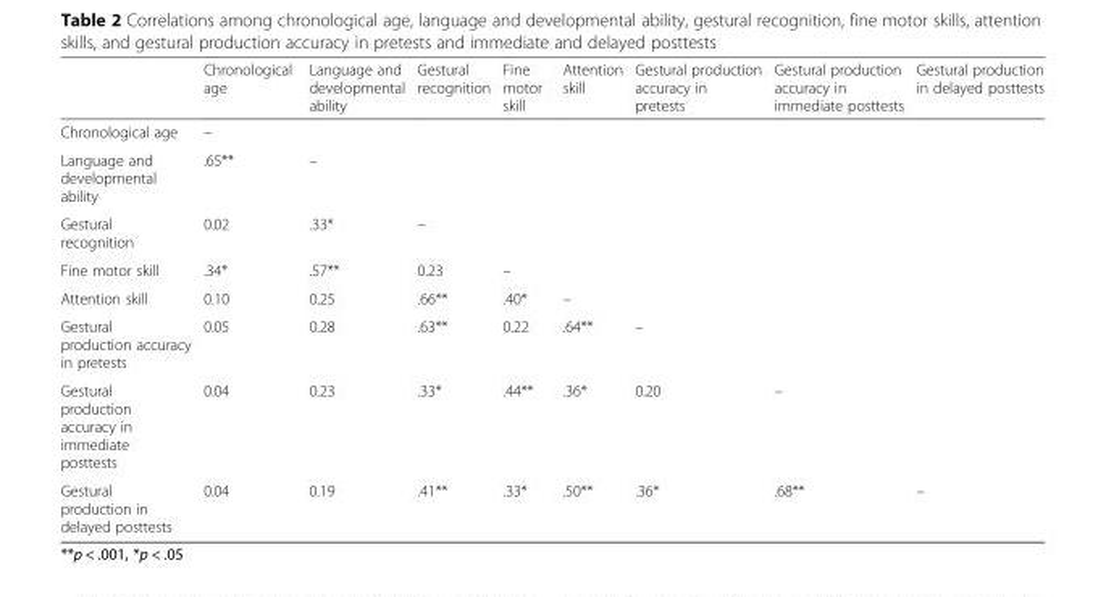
<table><thead><tr><td></td><td>Chronological age</td><td>Language and developmental ability</td><td>Gestural recognition</td><td>Fine motor skill</td><td>Attention skill</td><td>Gestural production accuracy in pretests</td><td>Gestural production accuracy in immediate posttests</td><td>Gestural production in delayed posttests</td></tr></thead><tbody><tr><td>Chronological age</td><td>–</td><td></td><td></td><td></td><td></td><td></td><td></td><td rowspan="7"></td></tr><tr><td>Language and developmental ability</td><td>.65**</td><td>–</td><td></td><td></td><td></td><td></td><td></td></tr><tr><td>Gestural recognition</td><td>0.02</td><td>.33*</td><td>–</td><td></td><td></td><td></td><td></td></tr><tr><td>Fine motor skill</td><td>.34*</td><td>.57**</td><td>0.23</td><td>–</td><td></td><td></td><td></td></tr><tr><td>Attention skill</td><td>0.10</td><td>0.25</td><td>.66**</td><td>.40*</td><td>–</td><td></td><td></td></tr><tr><td>Gestural production accuracy in pretests</td><td>0.05</td><td>0.28</td><td>.63**</td><td>0.22</td><td>.64**</td><td>–</td><td></td></tr><tr><td>Gestural production accuracy in immediate posttests</td><td>0.04</td><td>0.23</td><td>.33*</td><td>.44**</td><td>.36*</td><td>0.20</td><td>–</td></tr><tr><td>Gestural production in delayed posttests</td><td>0.04</td><td>0.19</td><td>.41**</td><td>.33*</td><td>.50**</td><td>.36*</td><td>.68**</td><td>–</td></tr></tbody></table>